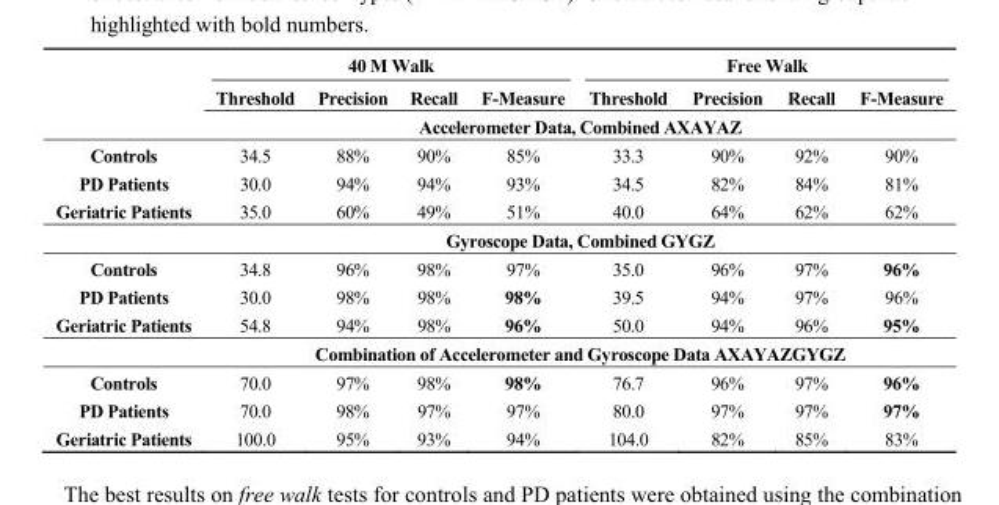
<table><thead><tr><td rowspan="3"></td><td colspan="4">40 M Walk</td><td colspan="4">Free Walk</td></tr><tr><td>Threshold</td><td>Precision</td><td>Recall</td><td>F-Measure</td><td>Threshold</td><td>Precision</td><td>Recall</td><td>F-Measure</td></tr><tr><td colspan="8">Accelerometer Data, Combined AXAYAZ</td></tr></thead><tbody><tr><td>Controls</td><td>34.5</td><td>88%</td><td>90%</td><td>85%</td><td>33.3</td><td>90%</td><td>92%</td><td>90%</td></tr><tr><td>PD Patients</td><td>30.0</td><td>94%</td><td>94%</td><td>93%</td><td>34.5</td><td>82%</td><td>84%</td><td>81%</td></tr><tr><td rowspan="2">Geriatric Patients</td><td>35.0</td><td>60%</td><td>49%</td><td>51%</td><td>40.0</td><td>64%</td><td>62%</td><td>62%</td></tr><tr><td colspan="8">Gyroscope Data, Combined GYGZ</td></tr><tr><td>Controls</td><td>34.8</td><td>96%</td><td>98%</td><td>97%</td><td>35.0</td><td>96%</td><td>97%</td><td>96%</td></tr><tr><td>PD Patients</td><td>30.0</td><td>98%</td><td>98%</td><td>98%</td><td>39.5</td><td>94%</td><td>97%</td><td>96%</td></tr><tr><td rowspan="2">Geriatric Patients</td><td>54.8</td><td>94%</td><td>98%</td><td>96%</td><td>50.0</td><td>94%</td><td>96%</td><td>95%</td></tr><tr><td colspan="8">Combination of Accelerometer and Gyroscope Data AXAYAZGYGZ</td></tr><tr><td>Controls</td><td>70.0</td><td>97%</td><td>98%</td><td>98%</td><td>76.7</td><td>96%</td><td>97%</td><td>96%</td></tr><tr><td>PD Patients</td><td>70.0</td><td>98%</td><td>97%</td><td>97%</td><td>80.0</td><td>97%</td><td>97%</td><td>97%</td></tr><tr><td>Geriatric Patients</td><td>100.0</td><td>95%</td><td>93%</td><td>94%</td><td>104.0</td><td>82%</td><td>85%</td><td>83%</td></tr></tbody></table>